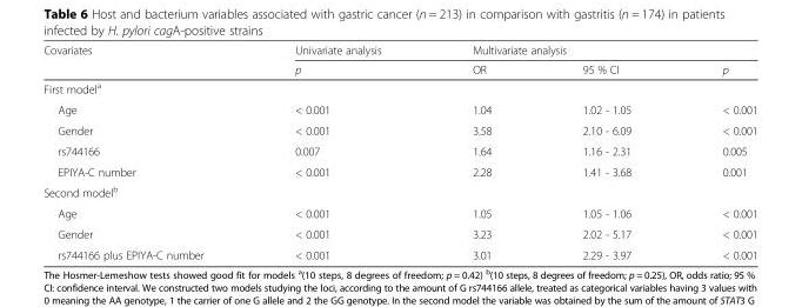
<table><thead><tr><td rowspan="2">Covariates</td><td rowspan="2">Univariate analysis p</td><td colspan="3">Multivariate analysis</td></tr><tr><td>OR</td><td>95 % CI</td><td>p</td></tr></thead><tbody><tr><td colspan="5">First model<sup>a</sup></td></tr><tr><td>Age</td><td>&lt; 0.001</td><td>1.04</td><td>1.02 - 1.05</td><td>&lt; 0.001</td></tr><tr><td>Gender</td><td>&lt; 0.001</td><td>3.58</td><td>2.10 - 6.09</td><td>&lt; 0.001</td></tr><tr><td>rs744166</td><td>0.007</td><td>1.64</td><td>1.16 - 2.31</td><td>0.005</td></tr><tr><td>EPIYA-C number</td><td>&lt; 0.001</td><td>2.28</td><td>1.41 - 3.68</td><td>0.001</td></tr><tr><td colspan="5">Second model<sup>b</sup></td></tr><tr><td>Age</td><td>&lt; 0.001</td><td>1.05</td><td>1.05 - 1.06</td><td>&lt; 0.001</td></tr><tr><td>Gender</td><td>&lt; 0.001</td><td>3.23</td><td>2.02 - 5.17</td><td>&lt; 0.001</td></tr><tr><td>rs744166 plus EPIYA-C number</td><td>&lt; 0.001</td><td>3.01</td><td>2.29 - 3.97</td><td>&lt; 0.001</td></tr></tbody></table>